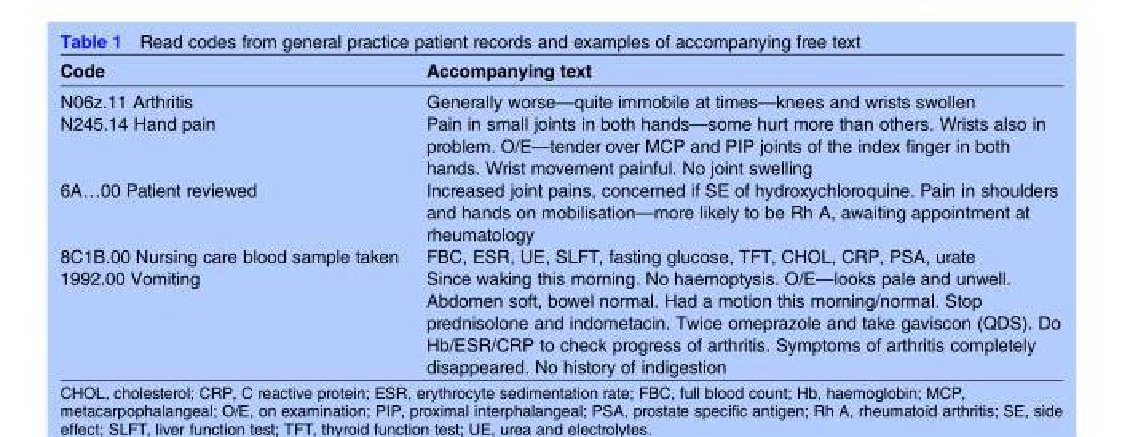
<table><thead><tr><td>Code</td><td>Accompanying text</td></tr></thead><tbody><tr><td>N06z.11 Arthritis</td><td>Generally worse—quite immobile at times—knees and wrists swollen</td></tr><tr><td>N245.14 Hand pain</td><td>Pain in small joints in both hands—some hurt more than others. Wrists also in problem. O/E—tender over MCP and PIP joints of the index finger in both hands. Wrist movement painful. No joint swelling</td></tr><tr><td>6A…00 Patient reviewed</td><td>Increased joint pains, concerned if SE of hydroxychloroquine. Pain in shoulders and hands on mobilisation—more likely to be Rh A, awaiting appointment at rheumatology</td></tr><tr><td>8C1B.00 Nursing care blood sample taken</td><td>FBC, ESR, UE, SLFT, fasting glucose, TFT, CHOL, CRP, PSA, urate</td></tr><tr><td>1992.00 Vomiting</td><td>Since waking this morning. No haemoptysis. O/E—looks pale and unwell. Abdomen soft, bowel normal. Had a motion this morning/normal. Stop prednisolone and indometacin. Twice omeprazole and take gaviscon (QDS). Do Hb/ESR/CRP to check progress of arthritis. Symptoms of arthritis completely disappeared. No history of indigestion</td></tr></tbody></table>